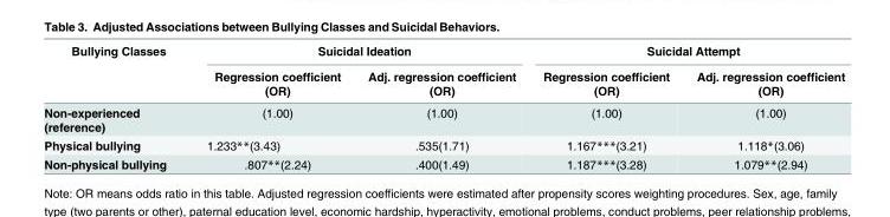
<table><thead><tr><td rowspan="2">Bullying Classes</td><td colspan="2">Suicidal Ideation</td><td colspan="2">Suicidal Attempt</td></tr><tr><td>Regression coefficient (OR)</td><td>Adj. regression coefficient (OR)</td><td>Regression coefficient (OR)</td><td>Adj. regression coefficient (OR)</td></tr></thead><tbody><tr><td>Non-experienced (reference)</td><td>(1.00)</td><td>(1.00)</td><td>(1.00)</td><td>(1.00)</td></tr><tr><td>Physical bullying</td><td>1.233**(3.43)</td><td>.535(1.71)</td><td>1.167***(3.21)</td><td>1.118*(3.06)</td></tr><tr><td>Non-physical bullying</td><td>.807**(2.24)</td><td>.400(1.49)</td><td>1.187***(3.28)</td><td>1.079**(2.94)</td></tr></tbody></table>